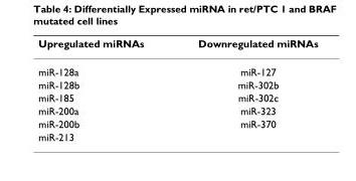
<table><thead><tr><td>Upregulated miRNAs</td><td>Downregulated miRNAs</td></tr></thead><tbody><tr><td>miR-128a</td><td>miR-127</td></tr><tr><td>miR-128b</td><td>miR-302b</td></tr><tr><td>miR-185</td><td>miR-302c</td></tr><tr><td>miR-200a</td><td>miR-323</td></tr><tr><td>miR-200b</td><td>miR-370</td></tr><tr><td>miR-213</td><td></td></tr></tbody></table>